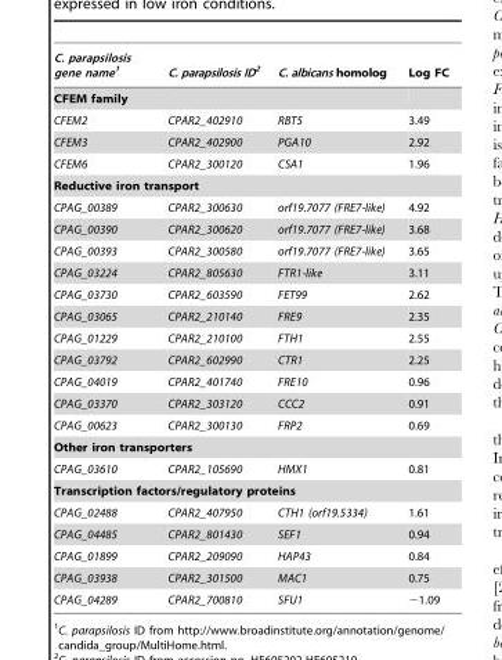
<table><thead><tr><td>C. parapsilosis gene name1</td><td>C. parapsilosis ID2</td><td>C. albicans homolog</td><td>Log FC</td></tr></thead><tbody><tr><td colspan="4">CFEM family</td></tr><tr><td>CFEM2</td><td>CPAR2_402910</td><td>RBT5</td><td>3.49</td></tr><tr><td>CFEM3</td><td>CPAR2_402900</td><td>PGA10</td><td>2.92</td></tr><tr><td>CFEM6</td><td>CPAR2_300120</td><td>CSA1</td><td>1.96</td></tr><tr><td colspan="4">Reductive iron transport</td></tr><tr><td>CPAG_00389</td><td>CPAR2_300630</td><td>orf19.7077 (FRE7-like)</td><td>4.92</td></tr><tr><td>CPAG_00390</td><td>CPAR2_300620</td><td>orf19.7077 (FRE7-like)</td><td>3.68</td></tr><tr><td>CPAG_00393</td><td>CPAR2_300580</td><td>orf19.7077 (FRE7-like)</td><td>3.65</td></tr><tr><td>CPAG_03224</td><td>CPAR2_805630</td><td>FTR1-like</td><td>3.11</td></tr><tr><td>CPAG_03730</td><td>CPAR2_603590</td><td>FET99</td><td>2.62</td></tr><tr><td>CPAG_03065</td><td>CPAR2_210140</td><td>FRE9</td><td>2.35</td></tr><tr><td>CPAG_01229</td><td>CPAR2_210100</td><td>FTH1</td><td>2.55</td></tr><tr><td>CPAG_03792</td><td>CPAR2_602990</td><td>CTR1</td><td>2.25</td></tr><tr><td>CPAG_04019</td><td>CPAR2_401740</td><td>FRE10</td><td>0.96</td></tr><tr><td>CPAG_03370</td><td>CPAR2_303120</td><td>CCC2</td><td>0.91</td></tr><tr><td>CPAG_00623</td><td>CPAR2_300130</td><td>FRP2</td><td>0.69</td></tr><tr><td colspan="4">Other iron transporters</td></tr><tr><td>CPAG_03610</td><td>CPAR2_105690</td><td>HMX1</td><td>0.81</td></tr><tr><td colspan="4">Transcription factors/regulatory proteins</td></tr><tr><td>CPAG_02488</td><td>CPAR2_407950</td><td>CTH1 (orf19.5334)</td><td>1.61</td></tr><tr><td>CPAG_04485</td><td>CPAR2_801430</td><td>SEF1</td><td>0.94</td></tr><tr><td>CPAG_01899</td><td>CPAR2_209090</td><td>HAP43</td><td>0.84</td></tr><tr><td>CPAG_03938</td><td>CPAR2_301500</td><td>MAC1</td><td>0.75</td></tr><tr><td>CPAG_04289</td><td>CPAR2_700810</td><td>SFU1</td><td>−1.09</td></tr></tbody></table>